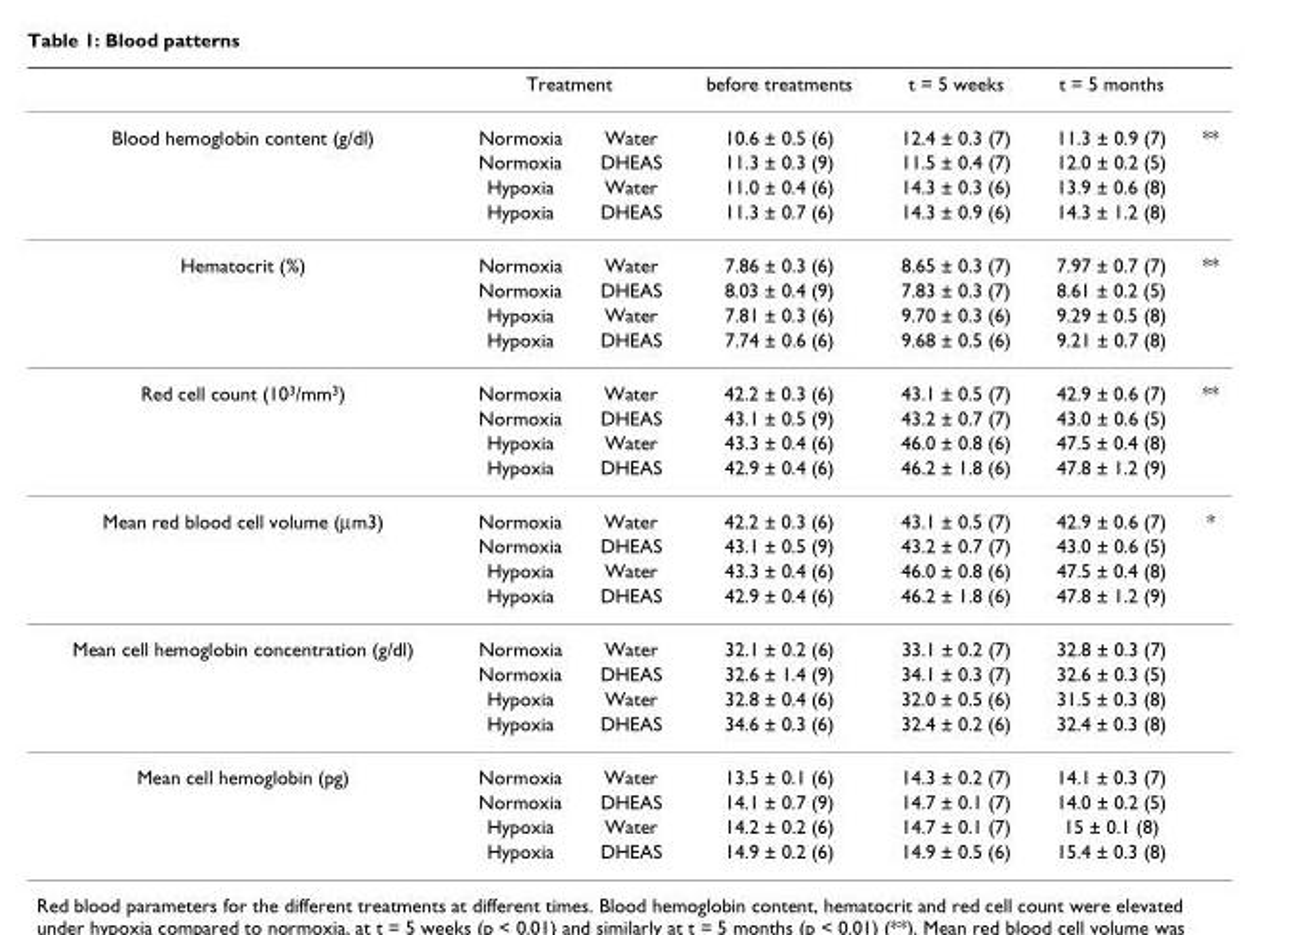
<table><thead><tr><td rowspan="2">Blood hemoglobin content (g/dl)</td><td colspan="2">Treatment</td><td rowspan="2">before treatments 10.6 ± 0.5 (6)</td><td rowspan="2">t = 5 weeks 12.4 ± 0.3 (7)</td><td rowspan="2">t = 5 months 11.3 ± 0.9 (7)</td><td rowspan="2">**</td></tr><tr><td>Normoxia</td><td>Water</td></tr></thead><tbody><tr><td></td><td>Normoxia</td><td>DHEAS</td><td>11.3 ± 0.3 (9)</td><td>11.5 ± 0.4 (7)</td><td>12.0 ± 0.2 (5)</td><td></td></tr><tr><td></td><td>Hypoxia</td><td>Water</td><td>11.0 ± 0.4 (6)</td><td>14.3 ± 0.3 (6)</td><td>13.9 ± 0.6 (8)</td><td></td></tr><tr><td></td><td>Hypoxia</td><td>DHEAS</td><td>11.3 ± 0.7 (6)</td><td>14.3 ± 0.9 (6)</td><td>14.3 ± 1.2 (8)</td><td></td></tr><tr><td rowspan="4">Hematocrit (%)</td><td>Normoxia</td><td>Water</td><td>7.86 ± 0.3 (6)</td><td>8.65 ± 0.3 (7)</td><td>7.97 ± 0.7 (7)</td><td>**</td></tr><tr><td>Normoxia</td><td>DHEAS</td><td>8.03 ± 0.4 (9)</td><td>7.83 ± 0.3 (7)</td><td>8.61 ± 0.2 (5)</td><td></td></tr><tr><td>Hypoxia</td><td>Water</td><td>7.81 ± 0.3 (6)</td><td>9.70 ± 0.3 (6)</td><td>9.29 ± 0.5 (8)</td><td></td></tr><tr><td>Hypoxia</td><td>DHEAS</td><td>7.74 ± 0.6 (6)</td><td>9.68 ± 0.5 (6)</td><td>9.21 ± 0.7 (8)</td><td></td></tr><tr><td rowspan="4">Red cell count (10<sup>3</sup>/mm<sup>3</sup>)</td><td>Normoxia</td><td>Water</td><td>42.2 ± 0.3 (6)</td><td>43.1 ± 0.5 (7)</td><td>42.9 ± 0.6 (7)</td><td>**</td></tr><tr><td>Normoxia</td><td>DHEAS</td><td>43.1 ± 0.5 (9)</td><td>43.2 ± 0.7 (7)</td><td>43.0 ± 0.6 (5)</td><td></td></tr><tr><td>Hypoxia</td><td>Water</td><td>43.3 ± 0.4 (6)</td><td>46.0 ± 0.8 (6)</td><td>47.5 ± 0.4 (8)</td><td></td></tr><tr><td>Hypoxia</td><td>DHEAS</td><td>42.9 ± 0.4 (6)</td><td>46.2 ± 1.8 (6)</td><td>47.8 ± 1.2 (9)</td><td></td></tr><tr><td rowspan="4">Mean red blood cell volume (μm3)</td><td>Normoxia</td><td>Water</td><td>42.2 ± 0.3 (6)</td><td>43.1 ± 0.5 (7)</td><td>42.9 ± 0.6 (7)</td><td>*</td></tr><tr><td>Normoxia</td><td>DHEAS</td><td>43.1 ± 0.5 (9)</td><td>43.2 ± 0.7 (7)</td><td>43.0 ± 0.6 (5)</td><td></td></tr><tr><td>Hypoxia</td><td>Water</td><td>43.3 ± 0.4 (6)</td><td>46.0 ± 0.8 (6)</td><td>47.5 ± 0.4 (8)</td><td></td></tr><tr><td>Hypoxia</td><td>DHEAS</td><td>42.9 ± 0.4 (6)</td><td>46.2 ± 1.8 (6)</td><td>47.8 ± 1.2 (9)</td><td></td></tr><tr><td rowspan="4">Mean cell hemoglobin concentration (g/dl)</td><td>Normoxia</td><td>Water</td><td>32.1 ± 0.2 (6)</td><td>33.1 ± 0.2 (7)</td><td>32.8 ± 0.3 (7)</td><td></td></tr><tr><td>Normoxia</td><td>DHEAS</td><td>32.6 ± 1.4 (9)</td><td>34.1 ± 0.3 (7)</td><td>32.6 ± 0.3 (5)</td><td></td></tr><tr><td>Hypoxia</td><td>Water</td><td>32.8 ± 0.4 (6)</td><td>32.0 ± 0.5 (6)</td><td>31.5 ± 0.3 (8)</td><td></td></tr><tr><td>Hypoxia</td><td>DHEAS</td><td>34.6 ± 0.3 (6)</td><td>32.4 ± 0.2 (6)</td><td>32.4 ± 0.3 (8)</td><td></td></tr><tr><td rowspan="4">Mean cell hemoglobin (pg)</td><td>Normoxia</td><td>Water</td><td>13.5 ± 0.1 (6)</td><td>14.3 ± 0.2 (7)</td><td>14.1 ± 0.3 (7)</td><td></td></tr><tr><td>Normoxia</td><td>DHEAS</td><td>14.1 ± 0.7 (9)</td><td>14.7 ± 0.1 (7)</td><td>14.0 ± 0.2 (5)</td><td></td></tr><tr><td>Hypoxia</td><td>Water</td><td>14.2 ± 0.2 (6)</td><td>14.7 ± 0.1 (7)</td><td>15 ± 0.1 (8)</td><td></td></tr><tr><td>Hypoxia</td><td>DHEAS</td><td>14.9 ± 0.2 (6)</td><td>14.9 ± 0.5 (6)</td><td>15.4 ± 0.3 (8)</td><td></td></tr></tbody></table>